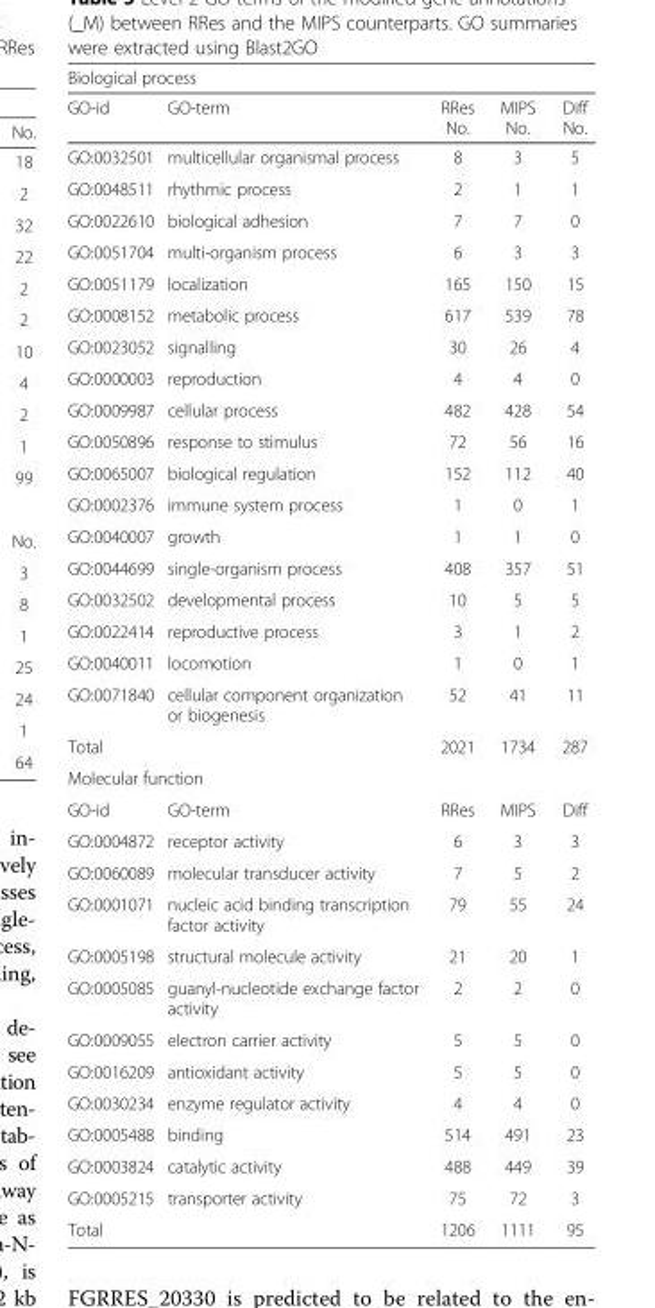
<table><thead><tr><td colspan="5">Biological process</td></tr><tr><td>GO-id</td><td>GO-term</td><td>RRes No.</td><td>MIPS No.</td><td>Diff No.</td></tr></thead><tbody><tr><td>GO:0032501</td><td>multicellular organismal process</td><td>8</td><td>3</td><td>5</td></tr><tr><td>GO:0048511</td><td>rhythmic process</td><td>2</td><td>1</td><td>1</td></tr><tr><td>GO:0022610</td><td>biological adhesion</td><td>7</td><td>7</td><td>0</td></tr><tr><td>GO:0051704</td><td>multi-organism process</td><td>6</td><td>3</td><td>3</td></tr><tr><td>GO:0051179</td><td>localization</td><td>165</td><td>150</td><td>15</td></tr><tr><td>GO:0008152</td><td>metabolic process</td><td>617</td><td>539</td><td>78</td></tr><tr><td>GO:0023052</td><td>signalling</td><td>30</td><td>26</td><td>4</td></tr><tr><td>GO:0000003</td><td>reproduction</td><td>4</td><td>4</td><td>0</td></tr><tr><td>GO:0009987</td><td>cellular process</td><td>482</td><td>428</td><td>54</td></tr><tr><td>GO:0050896</td><td>response to stimulus</td><td>72</td><td>56</td><td>16</td></tr><tr><td>GO:0065007</td><td>biological regulation</td><td>152</td><td>112</td><td>40</td></tr><tr><td>GO:0002376</td><td>immune system process</td><td>1</td><td>0</td><td>1</td></tr><tr><td>GO:0040007</td><td>growth</td><td>1</td><td>1</td><td>0</td></tr><tr><td>GO:0044699</td><td>single-organism process</td><td>408</td><td>357</td><td>51</td></tr><tr><td>GO:0032502</td><td>developmental process</td><td>10</td><td>5</td><td>5</td></tr><tr><td>GO:0022414</td><td>reproductive process</td><td>3</td><td>1</td><td>2</td></tr><tr><td>GO:0040011</td><td>locomotion</td><td>1</td><td>0</td><td>1</td></tr><tr><td>GO:0071840</td><td>cellular component organization or biogenesis</td><td>52</td><td>41</td><td>11</td></tr><tr><td colspan="2">Total</td><td>2021</td><td>1734</td><td>287</td></tr><tr><td colspan="5">Molecular function</td></tr><tr><td>GO-id</td><td>GO-term</td><td>RRes</td><td>MIPS</td><td>Diff</td></tr><tr><td>GO:0004872</td><td>receptor activity</td><td>6</td><td>3</td><td>3</td></tr><tr><td>GO:0060089</td><td>molecular transducer activity</td><td>7</td><td>5</td><td>2</td></tr><tr><td>GO:0001071</td><td>nucleic acid binding transcription factor activity</td><td>79</td><td>55</td><td>24</td></tr><tr><td>GO:0005198</td><td>structural molecule activity</td><td>21</td><td>20</td><td>1</td></tr><tr><td>GO:0005085</td><td>guanyl-nucleotide exchange factor activity</td><td>2</td><td>2</td><td>0</td></tr><tr><td>GO:0009055</td><td>electron carrier activity</td><td>5</td><td>5</td><td>0</td></tr><tr><td>GO:0016209</td><td>antioxidant activity</td><td>5</td><td>5</td><td>0</td></tr><tr><td>GO:0030234</td><td>enzyme regulator activity</td><td>4</td><td>4</td><td>0</td></tr><tr><td>GO:0005488</td><td>binding</td><td>514</td><td>491</td><td>23</td></tr><tr><td>GO:0003824</td><td>catalytic activity</td><td>488</td><td>449</td><td>39</td></tr><tr><td>GO:0005215</td><td>transporter activity</td><td>75</td><td>72</td><td>3</td></tr><tr><td colspan="2">Total</td><td>1206</td><td>1111</td><td>95</td></tr></tbody></table>